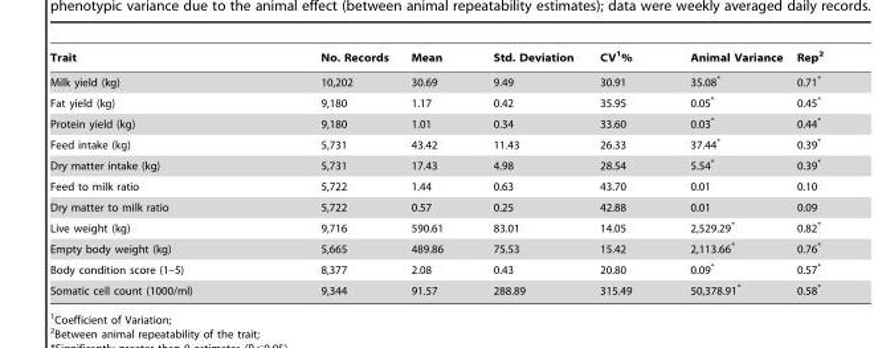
<table><thead><tr><td>Trait</td><td>No. Records</td><td>Mean</td><td>Std. Deviation</td><td>CV<sup>1</sup>%</td><td>Animal Variance</td><td>Rep<sup>2</sup></td></tr></thead><tbody><tr><td>Milk yield (kg)</td><td>10,202</td><td>30.69</td><td>9.49</td><td>30.91</td><td>35.08*</td><td>0.71*</td></tr><tr><td>Fat yield (kg)</td><td>9,180</td><td>1.17</td><td>0.42</td><td>35.95</td><td>0.05*</td><td>0.45*</td></tr><tr><td>Protein yield (kg)</td><td>9,180</td><td>1.01</td><td>0.34</td><td>33.60</td><td>0.03*</td><td>0.44*</td></tr><tr><td>Feed intake (kg)</td><td>5,731</td><td>43.42</td><td>11.43</td><td>26.33</td><td>37.44*</td><td>0.39*</td></tr><tr><td>Dry matter intake (kg)</td><td>5,731</td><td>17.43</td><td>4.98</td><td>28.54</td><td>5.54*</td><td>0.39*</td></tr><tr><td>Feed to milk ratio</td><td>5,722</td><td>1.44</td><td>0.63</td><td>43.70</td><td>0.01</td><td>0.10</td></tr><tr><td>Dry matter to milk ratio</td><td>5,722</td><td>0.57</td><td>0.25</td><td>42.88</td><td>0.01</td><td>0.09</td></tr><tr><td>Live weight (kg)</td><td>9,716</td><td>590.61</td><td>83.01</td><td>14.05</td><td>2,529.29*</td><td>0.82*</td></tr><tr><td>Empty body weight (kg)</td><td>5,665</td><td>489.86</td><td>75.53</td><td>15.42</td><td>2,113.66*</td><td>0.76*</td></tr><tr><td>Body condition score (1–5)</td><td>8,377</td><td>2.08</td><td>0.43</td><td>20.80</td><td>0.09*</td><td>0.57*</td></tr><tr><td>Somatic cell count (1000/ml)</td><td>9,344</td><td>91.57</td><td>288.89</td><td>315.49</td><td>50,378.91*</td><td>0.58*</td></tr></tbody></table>